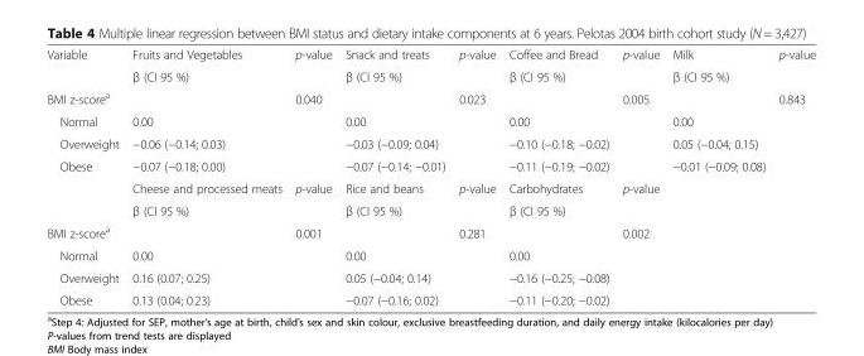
<table><tbody><tr><td rowspan="2">Variable</td><td>Fruits and Vegetables</td><td>p-value</td><td>Snack and treats</td><td>p-value</td><td>Coffee and Bread</td><td>p-value</td><td>Milk</td><td>p-value</td></tr><tr><td>β (CI 95 %)</td><td></td><td>β (CI 95 %)</td><td></td><td>β (CI 95 %)</td><td></td><td>β (CI 95 %)</td><td></td></tr><tr><td>BMI z-score<sup>a</sup></td><td></td><td>0.040</td><td></td><td>0.023</td><td></td><td>0.005</td><td></td><td>0.843</td></tr><tr><td>Normal</td><td>0.00</td><td></td><td>0.00</td><td></td><td>0.00</td><td></td><td>0.00</td><td></td></tr><tr><td>Overweight</td><td>−0.06 (−0.14; 0.03)</td><td></td><td>−0.03 (−0.09; 0.04)</td><td></td><td>−0.10 (−0.18; −0.02)</td><td></td><td>0.05 (−0.04; 0.15)</td><td></td></tr><tr><td rowspan="3">Obese</td><td>−0.07 (−0.18; 0.00)</td><td></td><td>−0.07 (−0.14; −0.01)</td><td></td><td>−0.11 (−0.19; −0.02)</td><td></td><td>−0.01 (−0.09; 0.08)</td><td></td></tr><tr><td>Cheese and processed meats</td><td>p-value</td><td>Rice and beans</td><td>p-value</td><td>Carbohydrates</td><td>p-value</td><td></td><td></td></tr><tr><td>β (CI 95 %)</td><td></td><td>β (CI 95 %)</td><td></td><td>β (CI 95 %)</td><td></td><td></td><td></td></tr><tr><td>BMI z-score<sup>a</sup></td><td></td><td>0.001</td><td></td><td>0.281</td><td></td><td>0.002</td><td></td><td></td></tr><tr><td>Normal</td><td>0.00</td><td></td><td>0.00</td><td></td><td>0.00</td><td></td><td></td><td></td></tr><tr><td>Overweight</td><td>0.16 (0.07; 0.25)</td><td></td><td>0.05 (−0.04; 0.14)</td><td></td><td>−0.16 (−0.25; −0.08)</td><td></td><td></td><td></td></tr><tr><td>Obese</td><td>0.13 (0.04; 0.23)</td><td></td><td>−0.07 (−0.16; 0.02)</td><td></td><td>−0.11 (−0.20; −0.02)</td><td></td><td></td><td></td></tr></tbody></table>